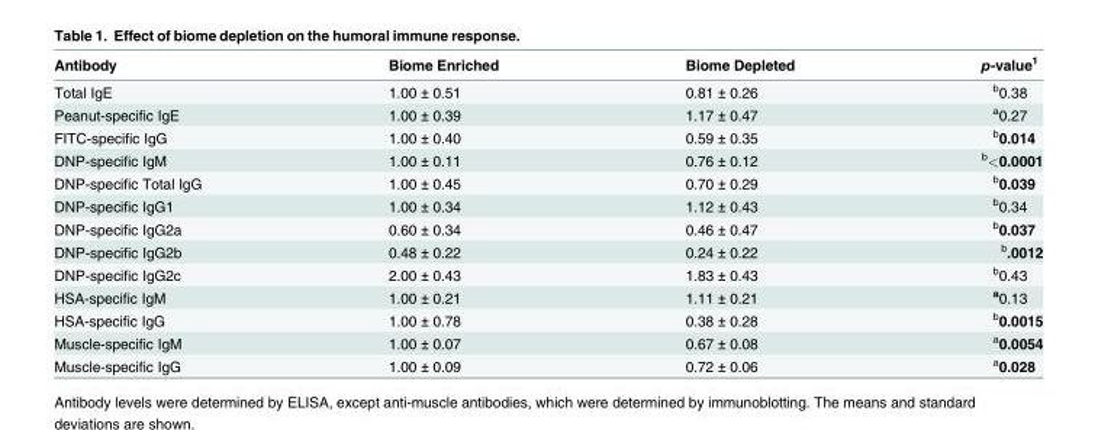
<table><thead><tr><td>Antibody</td><td>Biome Enriched</td><td>Biome Depleted</td><td>p-value<sup>1</sup></td></tr></thead><tbody><tr><td>Total IgE</td><td>1.00 ± 0.51</td><td>0.81 ± 0.26</td><td><sup>b</sup>0.38</td></tr><tr><td>Peanut-specific IgE</td><td>1.00 ± 0.39</td><td>1.17 ± 0.47</td><td><sup>a</sup>0.27</td></tr><tr><td>FITC-specific IgG</td><td>1.00 ± 0.40</td><td>0.59 ± 0.35</td><td><sup>b</sup>0.014</td></tr><tr><td>DNP-specific IgM</td><td>1.00 ± 0.11</td><td>0.76 ± 0.12</td><td><sup>b</sup>&lt;0.0001</td></tr><tr><td>DNP-specific Total IgG</td><td>1.00 ± 0.45</td><td>0.70 ± 0.29</td><td><sup>b</sup>0.039</td></tr><tr><td>DNP-specific IgG1</td><td>1.00 ± 0.34</td><td>1.12 ± 0.43</td><td><sup>b</sup>0.34</td></tr><tr><td>DNP-specific IgG2a</td><td>0.60 ± 0.34</td><td>0.46 ± 0.47</td><td><sup>b</sup>0.037</td></tr><tr><td>DNP-specific IgG2b</td><td>0.48 ± 0.22</td><td>0.24 ± 0.22</td><td><sup>b</sup>.0012</td></tr><tr><td>DNP-specific IgG2c</td><td>2.00 ± 0.43</td><td>1.83 ± 0.43</td><td><sup>b</sup>0.43</td></tr><tr><td>HSA-specific IgM</td><td>1.00 ± 0.21</td><td>1.11 ± 0.21</td><td><sup>a</sup>0.13</td></tr><tr><td>HSA-specific IgG</td><td>1.00 ± 0.78</td><td>0.38 ± 0.28</td><td><sup>b</sup>0.0015</td></tr><tr><td>Muscle-specific IgM</td><td>1.00 ± 0.07</td><td>0.67 ± 0.08</td><td><sup>a</sup>0.0054</td></tr><tr><td>Muscle-specific IgG</td><td>1.00 ± 0.09</td><td>0.72 ± 0.06</td><td><sup>a</sup>0.028</td></tr></tbody></table>